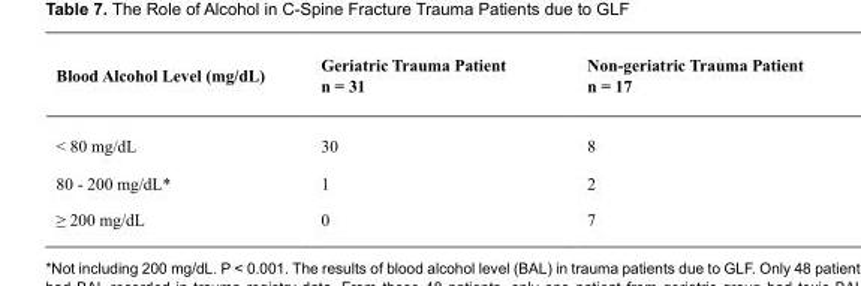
<table><thead><tr><td rowspan="2">Blood Alcohol Level (mg/dL)</td><td rowspan="2">Geriatric Trauma Patient n = 31</td><td rowspan="2">Non-geriatric Trauma Patient n = 17</td></tr><tr></tr></thead><tbody><tr><td>&lt; 80 mg/dL</td><td>30</td><td>8</td></tr><tr><td>80 - 200 mg/dL*</td><td>1</td><td>2</td></tr><tr><td>≥ 200 mg/dL</td><td>0</td><td>7</td></tr></tbody></table>